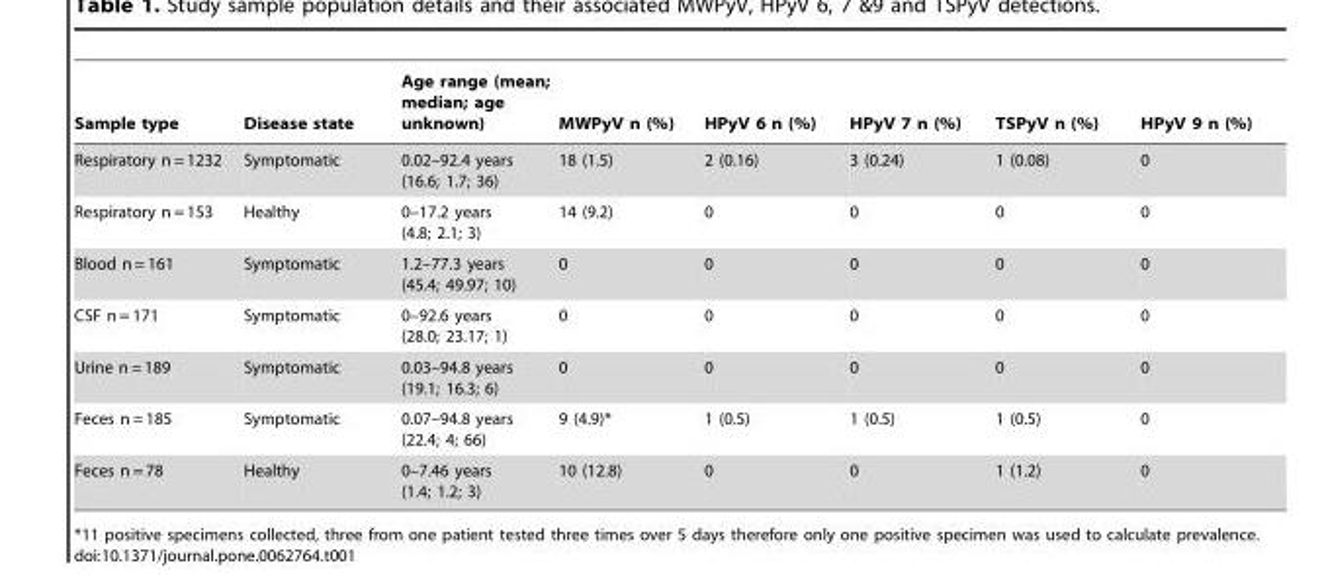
<table><thead><tr><td>Sample type</td><td>Disease state</td><td>Age range (mean; median; age unknown)</td><td>MWPyV n (%)</td><td>HPyV 6 n (%)</td><td>HPyV 7 n (%)</td><td>TSPyV n (%)</td><td>HPyV 9 n (%)</td></tr></thead><tbody><tr><td>Respiratory n = 1232</td><td>Symptomatic</td><td>0.02–92.4 years (16.6; 1.7; 36)</td><td>18 (1.5)</td><td>2 (0.16)</td><td>3 (0.24)</td><td>1 (0.08)</td><td>0</td></tr><tr><td>Respiratory n = 153</td><td>Healthy</td><td>0–17.2 years (4.8; 2.1; 3)</td><td>14 (9.2)</td><td>0</td><td>0</td><td>0</td><td>0</td></tr><tr><td>Blood n = 161</td><td>Symptomatic</td><td>1.2–77.3 years (45.4; 49.97; 10)</td><td>0</td><td>0</td><td>0</td><td>0</td><td>0</td></tr><tr><td>CSF n = 171</td><td>Symptomatic</td><td>0–92.6 years (28.0; 23.17; 1)</td><td>0</td><td>0</td><td>0</td><td>0</td><td>0</td></tr><tr><td>Urine n = 189</td><td>Symptomatic</td><td>0.03–94.8 years (19.1; 16.3; 6)</td><td>0</td><td>0</td><td>0</td><td>0</td><td>0</td></tr><tr><td>Feces n = 185</td><td>Symptomatic</td><td>0.07–94.8 years (22.4; 4; 66)</td><td>9 (4.9)*</td><td>1 (0.5)</td><td>1 (0.5)</td><td>1 (0.5)</td><td>0</td></tr><tr><td>Feces n = 78</td><td>Healthy</td><td>0–7.46 years (1.4; 1.2; 3)</td><td>10 (12.8)</td><td>0</td><td>0</td><td>1 (1.2)</td><td>0</td></tr></tbody></table>